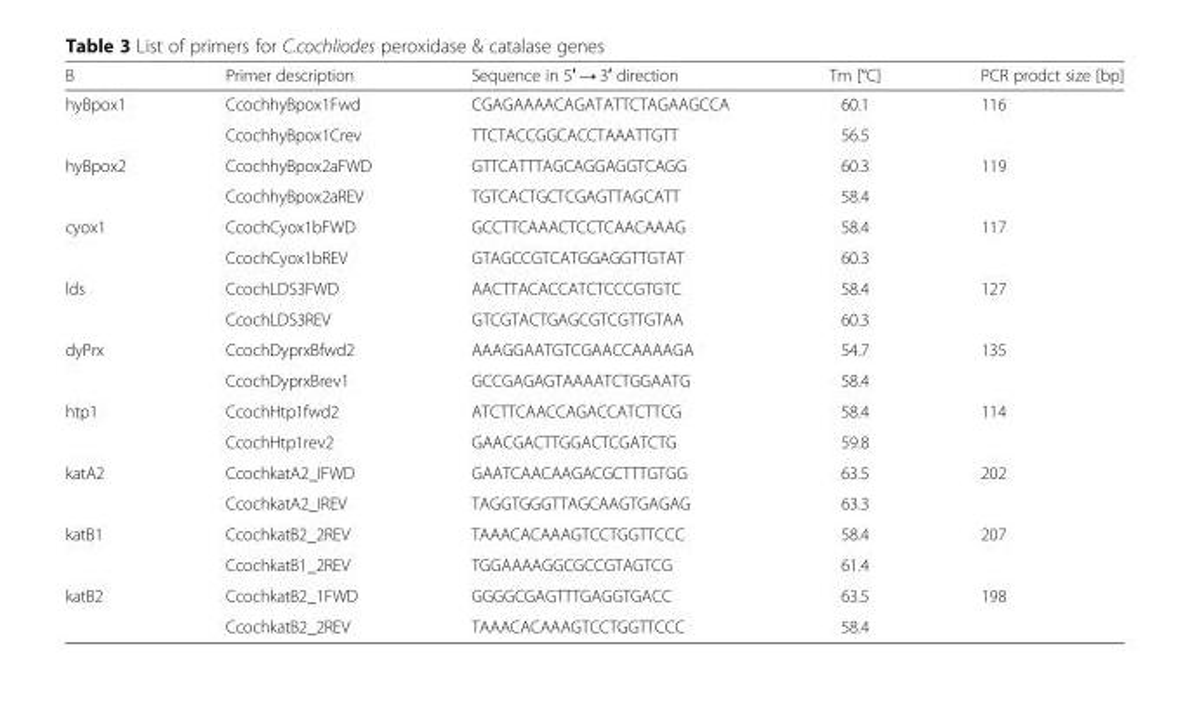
<table><thead><tr><td>B</td><td>Primer description</td><td>Sequence in 5′ → 3′ direction</td><td>Tm [°C]</td><td>PCR prodct size [bp]</td></tr></thead><tbody><tr><td rowspan="2">hyBpox1</td><td>CcochhyBpox1Fwd</td><td>CGAGAAAACAGATATTCTAGAAGCCA</td><td>60.1</td><td>116</td></tr><tr><td>CcochhyBpox1Crev</td><td>TTCTACCGGCACCTAAATTGTT</td><td>56.5</td><td></td></tr><tr><td rowspan="2">hyBpox2</td><td>CcochhyBpox2aFWD</td><td>GTTCATTTAGCAGGAGGTCAGG</td><td>60.3</td><td rowspan="2">119</td></tr><tr><td>CcochhyBpox2aREV</td><td>TGTCACTGCTCGAGTTAGCATT</td><td>58.4</td></tr><tr><td rowspan="2">cyox1</td><td>CcochCyox1bFWD</td><td>GCCTTCAAACTCCTCAACAAAG</td><td>58.4</td><td rowspan="2">117</td></tr><tr><td>CcochCyox1bREV</td><td>GTAGCCGTCATGGAGGTTGTAT</td><td>60.3</td></tr><tr><td rowspan="2">lds</td><td>CcochLDS3FWD</td><td>AACTTACACCATCTCCCGTGTC</td><td>58.4</td><td rowspan="2">127</td></tr><tr><td>CcochLDS3REV</td><td>GTCGTACTGAGCGTCGTTGTAA</td><td>60.3</td></tr><tr><td rowspan="2">dyPrx</td><td>CcochDyprxBfwd2</td><td>AAAGGAATGTCGAACCAAAAGA</td><td>54.7</td><td rowspan="2">135</td></tr><tr><td>CcochDyprxBrev1</td><td>GCCGAGAGTAAAATCTGGAATG</td><td>58.4</td></tr><tr><td rowspan="2">htp1</td><td>CcochHtp1fwd2</td><td>ATCTTCAACCAGACCATCTTCG</td><td>58.4</td><td rowspan="2">114</td></tr><tr><td>CcochHtp1rev2</td><td>GAACGACTTGGACTCGATCTG</td><td>59.8</td></tr><tr><td rowspan="2">katA2</td><td>CcochkatA2_IFWD</td><td>GAATCAACAAGACGCTTTGTGG</td><td>63.5</td><td rowspan="2">202</td></tr><tr><td>CcochkatA2_IREV</td><td>TAGGTGGGTTAGCAAGTGAGAG</td><td>63.3</td></tr><tr><td rowspan="2">katB1</td><td>CcochkatB2_2REV</td><td>TAAACACAAAGTCCTGGTTCCC</td><td>58.4</td><td rowspan="2">207</td></tr><tr><td>CcochkatB1_2REV</td><td>TGGAAAAGGCGCCGTAGTCG</td><td>61.4</td></tr><tr><td rowspan="2">katB2</td><td>CcochkatB2_1FWD</td><td>GGGGCGAGTTTGAGGTGACC</td><td>63.5</td><td rowspan="2">198</td></tr><tr><td>CcochkatB2_2REV</td><td>TAAACACAAAGTCCTGGTTCCC</td><td>58.4</td></tr></tbody></table>